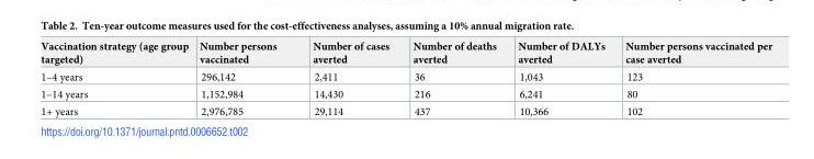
<table><thead><tr><td>Vaccination strategy (age group targeted)</td><td>Number persons vaccinated</td><td>Number of cases averted</td><td>Number of deaths averted</td><td>Number of DALYs averted</td><td>Number persons vaccinated per case averted</td></tr></thead><tbody><tr><td>1–4 years</td><td>296,142</td><td>2,411</td><td>36</td><td>1,043</td><td>123</td></tr><tr><td>1–14 years</td><td>1,152,984</td><td>14,430</td><td>216</td><td>6,241</td><td>80</td></tr><tr><td>1+ years</td><td>2,976,785</td><td>29,114</td><td>437</td><td>10,366</td><td>102</td></tr></tbody></table>